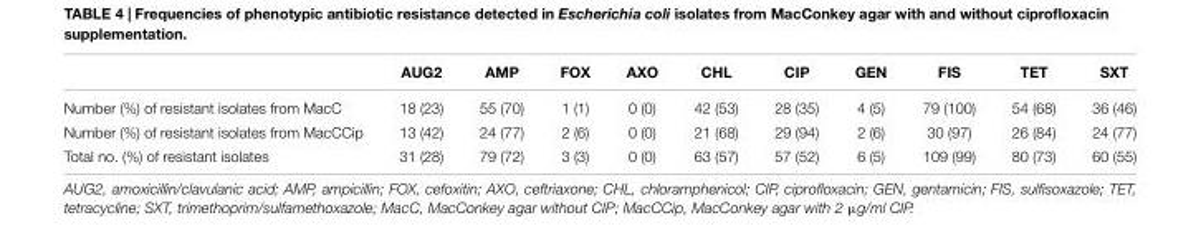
<table><thead><tr><td></td><td>AUG2</td><td>AMP</td><td>FOX</td><td>AXO</td><td>CHL</td><td>CIP</td><td>GEN</td><td>FIS</td><td>TET</td><td>SXT</td></tr></thead><tbody><tr><td>Number (%) of resistant isolates from MacC</td><td>18 (23)</td><td>55 (70)</td><td>1 (1)</td><td>0 (0)</td><td>42 (53)</td><td>28 (35)</td><td>4 (5)</td><td>79 (100)</td><td>54 (68)</td><td>36 (46)</td></tr><tr><td>Number (%) of resistant isolates from MacCCip</td><td>13 (42)</td><td>24 (77)</td><td>2 (6)</td><td>0 (0)</td><td>21 (68)</td><td>29 (94)</td><td>2 (6)</td><td>30 (97)</td><td>26 (84)</td><td>24 (77)</td></tr><tr><td>Total no. (%) of resistant isolates</td><td>31 (28)</td><td>79 (72)</td><td>3 (3)</td><td>0 (0)</td><td>63 (57)</td><td>57 (52)</td><td>6 (5)</td><td>109 (99)</td><td>80 (73)</td><td>60 (55)</td></tr></tbody></table>